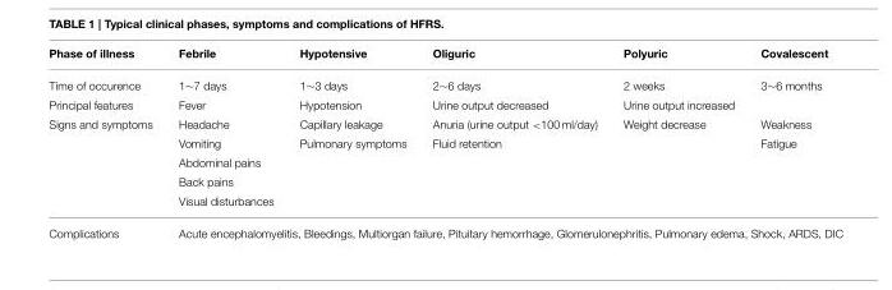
<table><thead><tr><td>Phase of illness</td><td>Febrile</td><td>Hypotensive</td><td>Oliguric</td><td>Polyuric</td><td>Covalescent</td></tr></thead><tbody><tr><td>Time of occurence</td><td>1∼7 days</td><td>1∼3 days</td><td>2∼6 days</td><td>2 weeks</td><td>3∼6 months</td></tr><tr><td>Principal features</td><td>Fever</td><td>Hypotension</td><td>Urine output decreased</td><td>Urine output increased</td><td></td></tr><tr><td rowspan="5">Signs and symptoms</td><td>Headache</td><td>Capillary leakage</td><td>Anuria (urine output &lt;100 ml/day)</td><td>Weight decrease</td><td>Weakness</td></tr><tr><td>Vomiting</td><td>Pulmonary symptoms</td><td>Fluid retention</td><td></td><td>Fatigue</td></tr><tr><td>Abdominal pains</td><td></td><td></td><td></td><td></td></tr><tr><td>Back pains</td><td></td><td></td><td></td><td></td></tr><tr><td>Visual disturbances</td><td></td><td></td><td></td><td></td></tr><tr><td>Complications</td><td colspan="5">Acute encephalomyelitis, Bleedings, Multiorgan failure, Pituitary hemorrhage, Glomerulonephritis, Pulmonary edema, Shock, ARDS, DIC</td></tr></tbody></table>